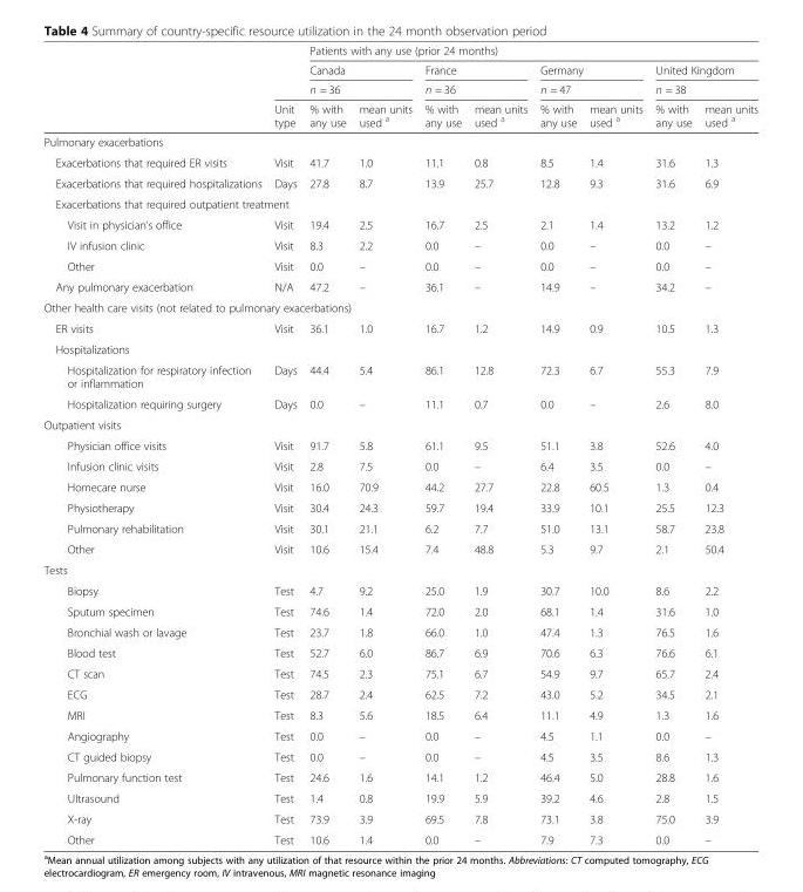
<table><thead><tr><td rowspan="4"></td><td rowspan="4">Unit type</td><td colspan="8">Patients with any use (prior 24 months)</td></tr><tr><td rowspan="2" colspan="2">Canada n = 36</td><td rowspan="2" colspan="2">France n = 36</td><td rowspan="2" colspan="2">Germany n = 47</td><td rowspan="2" colspan="2">United Kingdom n = 38</td></tr><tr></tr><tr><td>% with any use</td><td>mean units used <sup>a</sup></td><td>% with any use</td><td>mean units used <sup>a</sup></td><td>% with any use</td><td>mean units used <sup>a</sup></td><td>% with any use</td><td>mean units used <sup>a</sup></td></tr></thead><tbody><tr><td colspan="10">Pulmonary exacerbations</td></tr><tr><td>Exacerbations that required ER visits</td><td>Visit</td><td>41.7</td><td>1.0</td><td>11.1</td><td>0.8</td><td>8.5</td><td>1.4</td><td>31.6</td><td>1.3</td></tr><tr><td>Exacerbations that required hospitalizations</td><td>Days</td><td>27.8</td><td>8.7</td><td>13.9</td><td>25.7</td><td>12.8</td><td>9.3</td><td>31.6</td><td>6.9</td></tr><tr><td colspan="10">Exacerbations that required outpatient treatment</td></tr><tr><td>Visit in physician’s office</td><td>Visit</td><td>19.4</td><td>2.5</td><td>16.7</td><td>2.5</td><td>2.1</td><td>1.4</td><td>13.2</td><td>1.2</td></tr><tr><td>IV infusion clinic</td><td>Visit</td><td>8.3</td><td>2.2</td><td>0.0</td><td>–</td><td>0.0</td><td>–</td><td>0.0</td><td>–</td></tr><tr><td>Other</td><td>Visit</td><td>0.0</td><td>–</td><td>0.0</td><td>–</td><td>0.0</td><td>–</td><td>0.0</td><td>–</td></tr><tr><td>Any pulmonary exacerbation</td><td>N/A</td><td>47.2</td><td>–</td><td>36.1</td><td>–</td><td>14.9</td><td>–</td><td>34.2</td><td>–</td></tr><tr><td colspan="10">Other health care visits (not related to pulmonary exacerbations)</td></tr><tr><td>ER visits</td><td>Visit</td><td>36.1</td><td>1.0</td><td>16.7</td><td>1.2</td><td>14.9</td><td>0.9</td><td>10.5</td><td>1.3</td></tr><tr><td colspan="10">Hospitalizations</td></tr><tr><td>Hospitalization for respiratory infection or inflammation</td><td>Days</td><td>44.4</td><td>5.4</td><td>86.1</td><td>12.8</td><td>72.3</td><td>6.7</td><td>55.3</td><td>7.9</td></tr><tr><td>Hospitalization requiring surgery</td><td>Days</td><td>0.0</td><td>–</td><td>11.1</td><td>0.7</td><td>0.0</td><td>–</td><td>2.6</td><td>8.0</td></tr><tr><td colspan="10">Outpatient visits</td></tr><tr><td>Physician office visits</td><td>Visit</td><td>91.7</td><td>5.8</td><td>61.1</td><td>9.5</td><td>51.1</td><td>3.8</td><td>52.6</td><td>4.0</td></tr><tr><td>Infusion clinic visits</td><td>Visit</td><td>2.8</td><td>7.5</td><td>0.0</td><td>–</td><td>6.4</td><td>3.5</td><td>0.0</td><td>–</td></tr><tr><td>Homecare nurse</td><td>Visit</td><td>16.0</td><td>70.9</td><td>44.2</td><td>27.7</td><td>22.8</td><td>60.5</td><td>1.3</td><td>0.4</td></tr><tr><td>Physiotherapy</td><td>Visit</td><td>30.4</td><td>24.3</td><td>59.7</td><td>19.4</td><td>33.9</td><td>10.1</td><td>25.5</td><td>12.3</td></tr><tr><td>Pulmonary rehabilitation</td><td>Visit</td><td>30.1</td><td>21.1</td><td>6.2</td><td>7.7</td><td>51.0</td><td>13.1</td><td>58.7</td><td>23.8</td></tr><tr><td>Other</td><td>Visit</td><td>10.6</td><td>15.4</td><td>7.4</td><td>48.8</td><td>5.3</td><td>9.7</td><td>2.1</td><td>50.4</td></tr><tr><td colspan="10">Tests</td></tr><tr><td>Biopsy</td><td>Test</td><td>4.7</td><td>9.2</td><td>25.0</td><td>1.9</td><td>30.7</td><td>10.0</td><td>8.6</td><td>2.2</td></tr><tr><td>Sputum specimen</td><td>Test</td><td>74.6</td><td>1.4</td><td>72.0</td><td>2.0</td><td>68.1</td><td>1.4</td><td>31.6</td><td>1.0</td></tr><tr><td>Bronchial wash or lavage</td><td>Test</td><td>23.7</td><td>1.8</td><td>66.0</td><td>1.0</td><td>47.4</td><td>1.3</td><td>76.5</td><td>1.6</td></tr><tr><td>Blood test</td><td>Test</td><td>52.7</td><td>6.0</td><td>86.7</td><td>6.9</td><td>70.6</td><td>6.3</td><td>76.6</td><td>6.1</td></tr><tr><td>CT scan</td><td>Test</td><td>74.5</td><td>2.3</td><td>75.1</td><td>6.7</td><td>54.9</td><td>9.7</td><td>65.7</td><td>2.4</td></tr><tr><td>ECG</td><td>Test</td><td>28.7</td><td>2.4</td><td>62.5</td><td>7.2</td><td>43.0</td><td>5.2</td><td>34.5</td><td>2.1</td></tr><tr><td>MRI</td><td>Test</td><td>8.3</td><td>5.6</td><td>18.5</td><td>6.4</td><td>11.1</td><td>4.9</td><td>1.3</td><td>1.6</td></tr><tr><td>Angiography</td><td>Test</td><td>0.0</td><td>–</td><td>0.0</td><td>–</td><td>4.5</td><td>1.1</td><td>0.0</td><td>–</td></tr><tr><td>CT guided biopsy</td><td>Test</td><td>0.0</td><td>–</td><td>0.0</td><td>–</td><td>4.5</td><td>3.5</td><td>8.6</td><td>1.3</td></tr><tr><td>Pulmonary function test</td><td>Test</td><td>24.6</td><td>1.6</td><td>14.1</td><td>1.2</td><td>46.4</td><td>5.0</td><td>28.8</td><td>1.6</td></tr><tr><td>Ultrasound</td><td>Test</td><td>1.4</td><td>0.8</td><td>19.9</td><td>5.9</td><td>39.2</td><td>4.6</td><td>2.8</td><td>1.5</td></tr><tr><td>X-ray</td><td>Test</td><td>73.9</td><td>3.9</td><td>69.5</td><td>7.8</td><td>73.1</td><td>3.8</td><td>75.0</td><td>3.9</td></tr><tr><td>Other</td><td>Test</td><td>10.6</td><td>1.4</td><td>0.0</td><td>–</td><td>7.9</td><td>7.3</td><td>0.0</td><td>–</td></tr></tbody></table>